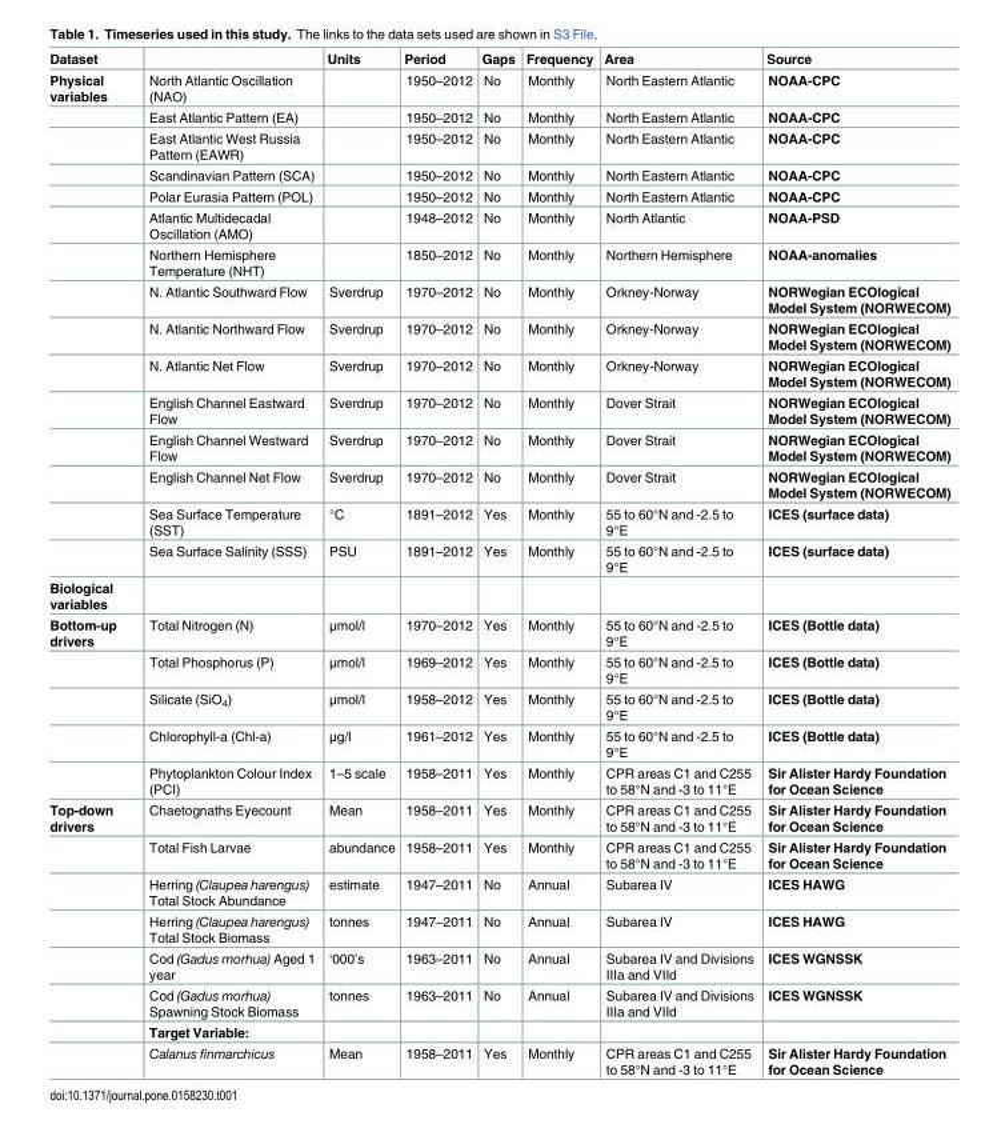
<table><thead><tr><td>Dataset</td><td></td><td>Units</td><td>Period</td><td>Gaps</td><td>Frequency</td><td>Area</td><td>Source</td></tr></thead><tbody><tr><td rowspan="15">Physical variables</td><td>North Atlantic Oscillation (NAO)</td><td></td><td>1950–2012</td><td>No</td><td>Monthly</td><td>North Eastern Atlantic</td><td>NOAA-CPC</td></tr><tr><td>East Atlantic Pattern (EA)</td><td></td><td>1950–2012</td><td>No</td><td>Monthly</td><td>North Eastern Atlantic</td><td>NOAA-CPC</td></tr><tr><td>East Atlantic West Russia Pattern (EAWR)</td><td></td><td>1950–2012</td><td>No</td><td>Monthly</td><td>North Eastern Atlantic</td><td>NOAA-CPC</td></tr><tr><td>Scandinavian Pattern (SCA)</td><td></td><td>1950–2012</td><td>No</td><td>Monthly</td><td>North Eastern Atlantic</td><td>NOAA-CPC</td></tr><tr><td>Polar Eurasia Pattern (POL)</td><td></td><td>1950–2012</td><td>No</td><td>Monthly</td><td>North Eastern Atlantic</td><td>NOAA-CPC</td></tr><tr><td>Atlantic Multidecadal Oscillation (AMO)</td><td></td><td>1948–2012</td><td>No</td><td>Monthly</td><td>North Atlantic</td><td>NOAA-PSD</td></tr><tr><td>Northern Hemisphere Temperature (NHT)</td><td></td><td>1850–2012</td><td>No</td><td>Monthly</td><td>Northern Hemisphere</td><td>NOAA-anomalies</td></tr><tr><td>N. Atlantic Southward Flow</td><td>Sverdrup</td><td>1970–2012</td><td>No</td><td>Monthly</td><td>Orkney-Norway</td><td>NORWegian ECOlogical Model System (NORWECOM)</td></tr><tr><td>N. Atlantic Northward Flow</td><td>Sverdrup</td><td>1970–2012</td><td>No</td><td>Monthly</td><td>Orkney-Norway</td><td>NORWegian ECOlogical Model System (NORWECOM)</td></tr><tr><td>N. Atlantic Net Flow</td><td>Sverdrup</td><td>1970–2012</td><td>No</td><td>Monthly</td><td>Orkney-Norway</td><td>NORWegian ECOlogical Model System (NORWECOM)</td></tr><tr><td>English Channel Eastward Flow</td><td>Sverdrup</td><td>1970–2012</td><td>No</td><td>Monthly</td><td>Dover Strait</td><td>NORWegian ECOlogical Model System (NORWECOM)</td></tr><tr><td>English Channel Westward Flow</td><td>Sverdrup</td><td>1970–2012</td><td>No</td><td>Monthly</td><td>Dover Strait</td><td>NORWegian ECOlogical Model System (NORWECOM)</td></tr><tr><td>English Channel Net Flow</td><td>Sverdrup</td><td>1970–2012</td><td>No</td><td>Monthly</td><td>Dover Strait</td><td>NORWegian ECOlogical Model System (NORWECOM)</td></tr><tr><td>Sea Surface Temperature (SST)</td><td>°C</td><td>1891–2012</td><td>Yes</td><td>Monthly</td><td>55 to 60°N and -2.5 to 9°E</td><td>ICES (surface data)</td></tr><tr><td>Sea Surface Salinity (SSS)</td><td>PSU</td><td>1891–2012</td><td>Yes</td><td>Monthly</td><td>55 to 60°N and -2.5 to 9°E</td><td>ICES (surface data)</td></tr><tr><td colspan="8">Biological variables</td></tr><tr><td rowspan="5">Bottom-up drivers</td><td>Total Nitrogen (N)</td><td>μmol/l</td><td>1970–2012</td><td>Yes</td><td>Monthly</td><td>55 to 60°N and -2.5 to 9°E</td><td>ICES (Bottle data)</td></tr><tr><td>Total Phosphorus (P)</td><td>μmol/l</td><td>1969–2012</td><td>Yes</td><td>Monthly</td><td>55 to 60°N and -2.5 to 9°E</td><td>ICES (Bottle data)</td></tr><tr><td>Silicate (SiO<sub>4</sub>)</td><td>μmol/l</td><td>1958–2012</td><td>Yes</td><td>Monthly</td><td>55 to 60°N and -2.5 to 9°E</td><td>ICES (Bottle data)</td></tr><tr><td>Chlorophyll-a (Chl-a)</td><td>μg/l</td><td>1961–2012</td><td>Yes</td><td>Monthly</td><td>55 to 60°N and -2.5 to 9°E</td><td>ICES (Bottle data)</td></tr><tr><td>Phytoplankton Colour Index (PCI)</td><td>1–5 scale</td><td>1958–2011</td><td>Yes</td><td>Monthly</td><td>CPR areas C1 and C255 to 58°N and -3 to 11°E</td><td>Sir Alister Hardy Foundation for Ocean Science</td></tr><tr><td rowspan="8">Top-down drivers</td><td>Chaetognaths Eyecount</td><td>Mean</td><td>1958–2011</td><td>Yes</td><td>Monthly</td><td>CPR areas C1 and C255 to 58°N and -3 to 11°E</td><td>Sir Alister Hardy Foundation for Ocean Science</td></tr><tr><td>Total Fish Larvae</td><td>abundance</td><td>1958–2011</td><td>Yes</td><td>Monthly</td><td>CPR areas C1 and C255 to 58°N and -3 to 11°E</td><td>Sir Alister Hardy Foundation for Ocean Science</td></tr><tr><td>Herring (Claupea harengus) Total Stock Abundance</td><td>estimate</td><td>1947–2011</td><td>No</td><td>Annual</td><td>Subarea IV</td><td>ICES HAWG</td></tr><tr><td>Herring (Claupea harengus) Total Stock Biomass</td><td>tonnes</td><td>1947–2011</td><td>No</td><td>Annual</td><td>Subarea IV</td><td>ICES HAWG</td></tr><tr><td>Cod (Gadus morhua) Aged 1 year</td><td>‘000’s</td><td>1963–2011</td><td>No</td><td>Annual</td><td>Subarea IV and Divisions IIIa and VIId</td><td>ICES WGNSSK</td></tr><tr><td>Cod (Gadus morhua) Spawning Stock Biomass</td><td>tonnes</td><td>1963–2011</td><td>No</td><td>Annual</td><td>Subarea IV and Divisions IIIa and VIId</td><td>ICES WGNSSK</td></tr><tr><td>Target Variable:</td><td></td><td></td><td></td><td></td><td></td><td></td></tr><tr><td>Calanus finmarchicus</td><td>Mean</td><td>1958–2011</td><td>Yes</td><td>Monthly</td><td>CPR areas C1 and C255 to 58°N and -3 to 11°E</td><td>Sir Alister Hardy Foundation for Ocean Science</td></tr></tbody></table>